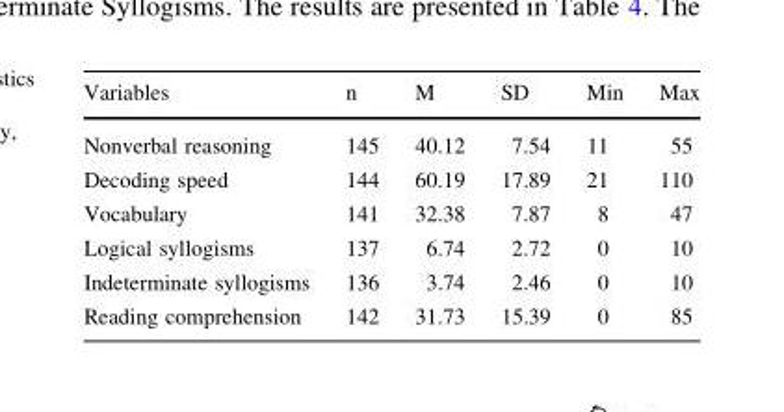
<table><thead><tr><td>Variables</td><td>n</td><td>M</td><td>SD</td><td>Min</td><td>Max</td></tr></thead><tbody><tr><td>Nonverbal reasoning</td><td>145</td><td>40.12</td><td>7.54</td><td>11</td><td>55</td></tr><tr><td>Decoding speed</td><td>144</td><td>60.19</td><td>17.89</td><td>21</td><td>110</td></tr><tr><td>Vocabulary</td><td>141</td><td>32.38</td><td>7.87</td><td>8</td><td>47</td></tr><tr><td>Logical syllogisms</td><td>137</td><td>6.74</td><td>2.72</td><td>0</td><td>10</td></tr><tr><td>Indeterminate syllogisms</td><td>136</td><td>3.74</td><td>2.46</td><td>0</td><td>10</td></tr><tr><td>Reading comprehension</td><td>142</td><td>31.73</td><td>15.39</td><td>0</td><td>85</td></tr></tbody></table>